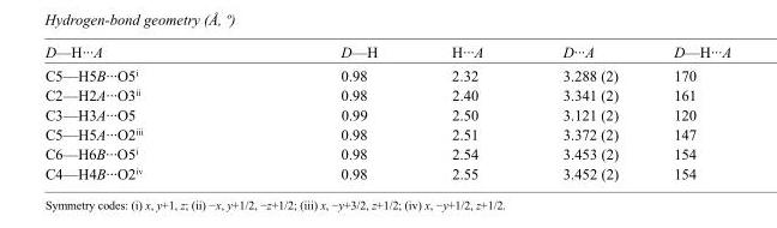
<table><tbody><tr><td>D—H···A</td><td>D—H</td><td>H···A</td><td>D···A</td><td>D—H···A</td></tr><tr><td>C5—H5B···O5<sup>i</sup></td><td>0.98</td><td>2.32</td><td>3.288 (2)</td><td>170</td></tr><tr><td>C2—H2A···O3<sup>ii</sup></td><td>0.98</td><td>2.40</td><td>3.341 (2)</td><td>161</td></tr><tr><td>C3—H3A···O5</td><td>0.99</td><td>2.50</td><td>3.121 (2)</td><td>120</td></tr><tr><td>C5—H5A···O2<sup>iii</sup></td><td>0.98</td><td>2.51</td><td>3.372 (2)</td><td>147</td></tr><tr><td>C6—H6B···O5<sup>i</sup></td><td>0.98</td><td>2.54</td><td>3.453 (2)</td><td>154</td></tr><tr><td>C4—H4B···O2<sup>iv</sup></td><td>0.98</td><td>2.55</td><td>3.452 (2)</td><td>154</td></tr></tbody></table>